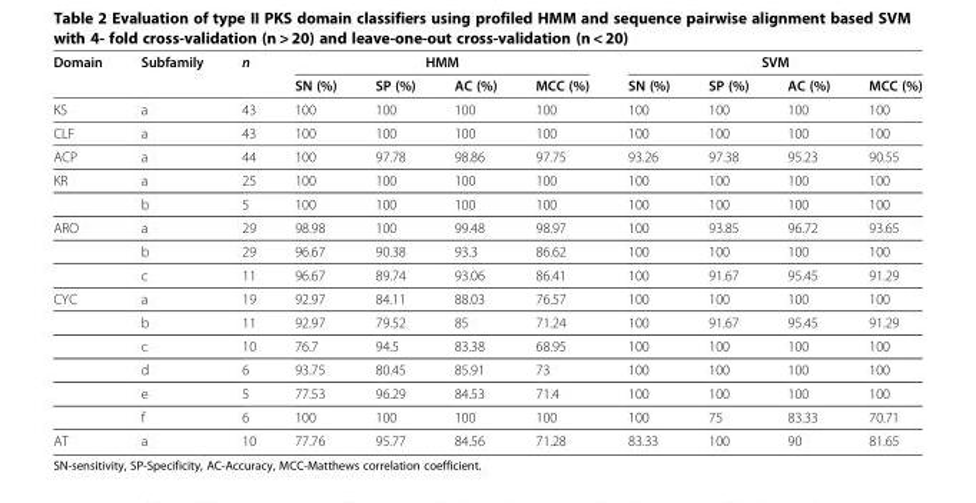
<table><thead><tr><td rowspan="2">Domain</td><td rowspan="2">Subfamily</td><td rowspan="2">n</td><td colspan="4">HMM</td><td colspan="4">SVM</td></tr><tr><td>SN (%)</td><td>SP (%)</td><td>AC (%)</td><td>MCC (%)</td><td>SN (%)</td><td>SP (%)</td><td>AC (%)</td><td>MCC (%)</td></tr></thead><tbody><tr><td>KS</td><td>a</td><td>43</td><td>100</td><td>100</td><td>100</td><td>100</td><td>100</td><td>100</td><td>100</td><td>100</td></tr><tr><td>CLF</td><td>a</td><td>43</td><td>100</td><td>100</td><td>100</td><td>100</td><td>100</td><td>100</td><td>100</td><td>100</td></tr><tr><td>ACP</td><td>a</td><td>44</td><td>100</td><td>97.78</td><td>98.86</td><td>97.75</td><td>93.26</td><td>97.38</td><td>95.23</td><td>90.55</td></tr><tr><td rowspan="2">KR</td><td>a</td><td>25</td><td>100</td><td>100</td><td>100</td><td>100</td><td>100</td><td>100</td><td>100</td><td>100</td></tr><tr><td>b</td><td>5</td><td>100</td><td>100</td><td>100</td><td>100</td><td>100</td><td>100</td><td>100</td><td>100</td></tr><tr><td rowspan="3">ARO</td><td>a</td><td>29</td><td>98.98</td><td>100</td><td>99.48</td><td>98.97</td><td>100</td><td>93.85</td><td>96.72</td><td>93.65</td></tr><tr><td>b</td><td>29</td><td>96.67</td><td>90.38</td><td>93.3</td><td>86.62</td><td>100</td><td>100</td><td>100</td><td>100</td></tr><tr><td>c</td><td>11</td><td>96.67</td><td>89.74</td><td>93.06</td><td>86.41</td><td>100</td><td>91.67</td><td>95.45</td><td>91.29</td></tr><tr><td rowspan="6">CYC</td><td>a</td><td>19</td><td>92.97</td><td>84.11</td><td>88.03</td><td>76.57</td><td>100</td><td>100</td><td>100</td><td>100</td></tr><tr><td>b</td><td>11</td><td>92.97</td><td>79.52</td><td>85</td><td>71.24</td><td>100</td><td>91.67</td><td>95.45</td><td>91.29</td></tr><tr><td>c</td><td>10</td><td>76.7</td><td>94.5</td><td>83.38</td><td>68.95</td><td>100</td><td>100</td><td>100</td><td>100</td></tr><tr><td>d</td><td>6</td><td>93.75</td><td>80.45</td><td>85.91</td><td>73</td><td>100</td><td>100</td><td>100</td><td>100</td></tr><tr><td>e</td><td>5</td><td>77.53</td><td>96.29</td><td>84.53</td><td>71.4</td><td>100</td><td>100</td><td>100</td><td>100</td></tr><tr><td>f</td><td>6</td><td>100</td><td>100</td><td>100</td><td>100</td><td>100</td><td>75</td><td>83.33</td><td>70.71</td></tr><tr><td>AT</td><td>a</td><td>10</td><td>77.76</td><td>95.77</td><td>84.56</td><td>71.28</td><td>83.33</td><td>100</td><td>90</td><td>81.65</td></tr></tbody></table>